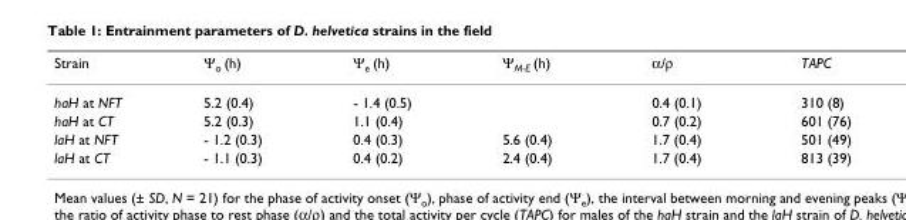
<table><thead><tr><td>Strain</td><td>Ψ<sub>o</sub> (h)</td><td>Ψ<sub>e</sub> (h)</td><td>Ψ<sub>M-E</sub> (h)</td><td>α/ρ</td><td>TAPC</td></tr></thead><tbody><tr><td>haH at NFT</td><td>5.2 (0.4)</td><td>- 1.4 (0.5)</td><td></td><td>0.4 (0.1)</td><td>310 (8)</td></tr><tr><td>haH at CT</td><td>5.2 (0.3)</td><td>1.1 (0.4)</td><td></td><td>0.7 (0.2)</td><td>601 (76)</td></tr><tr><td>laH at NFT</td><td>- 1.2 (0.3)</td><td>0.4 (0.3)</td><td>5.6 (0.4)</td><td>1.7 (0.4)</td><td>501 (49)</td></tr><tr><td>laH at CT</td><td>- 1.1 (0.3)</td><td>0.4 (0.2)</td><td>2.4 (0.4)</td><td>1.7 (0.4)</td><td>813 (39)</td></tr></tbody></table>